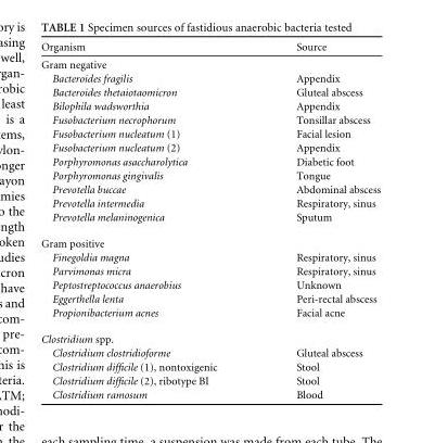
<table><thead><tr><td>Organism</td><td>Source</td></tr></thead><tbody><tr><td colspan="2">Gram negative</td></tr><tr><td>Bacteroides fragilis</td><td>Appendix</td></tr><tr><td>Bacteroides thetaiotaomicron</td><td>Gluteal abscess</td></tr><tr><td>Bilophila wadsworthia</td><td>Appendix</td></tr><tr><td>Fusobacterium necrophorum</td><td>Tonsillar abscess</td></tr><tr><td>Fusobacterium nucleatum (1)</td><td>Facial lesion</td></tr><tr><td>Fusobacterium nucleatum (2)</td><td>Appendix</td></tr><tr><td>Porphyromonas asaccharolytica</td><td>Diabetic foot</td></tr><tr><td>Porphyromonas gingivalis</td><td>Tongue</td></tr><tr><td>Prevotella buccae</td><td>Abdominal abscess</td></tr><tr><td>Prevotella intermedia</td><td>Respiratory, sinus</td></tr><tr><td>Prevotella melaninogenica</td><td>Sputum</td></tr><tr><td colspan="2">Gram positive</td></tr><tr><td>Finegoldia magna</td><td>Respiratory, sinus</td></tr><tr><td>Parvimonas micra</td><td>Respiratory, sinus</td></tr><tr><td>Peptostreptococcus anaerobius</td><td>Unknown</td></tr><tr><td>Eggerthella lenta</td><td>Peri-rectal abscess</td></tr><tr><td>Propionibacterium acnes</td><td>Facial acne</td></tr><tr><td colspan="2">Clostridium spp.</td></tr><tr><td>Clostridium clostridioforme</td><td>Gluteal abscess</td></tr><tr><td>Clostridium difficile (1), nontoxigenic</td><td>Stool</td></tr><tr><td>Clostridium difficile (2), ribotype BI</td><td>Stool</td></tr><tr><td>Clostridium ramosum</td><td>Blood</td></tr></tbody></table>